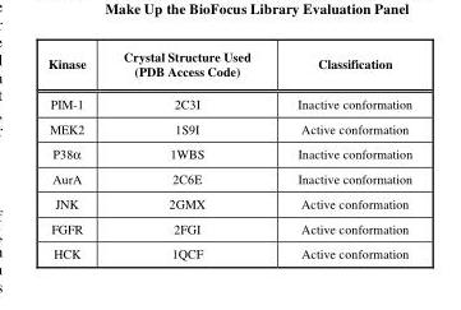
<table><thead><tr><td>Kinase</td><td>Crystal Structure Used (PDB Access Code)</td><td>Classification</td></tr></thead><tbody><tr><td>PIM-1</td><td>2C3I</td><td>Inactive conformation</td></tr><tr><td>MEK2</td><td>1S9I</td><td>Active conformation</td></tr><tr><td>P38α</td><td>1WBS</td><td>Inactive conformation</td></tr><tr><td>AurA</td><td>2C6E</td><td>Inactive conformation</td></tr><tr><td>JNK</td><td>2GMX</td><td>Active conformation</td></tr><tr><td>FGFR</td><td>2FGI</td><td>Active conformation</td></tr><tr><td>HCK</td><td>1QCF</td><td>Active conformation</td></tr></tbody></table>